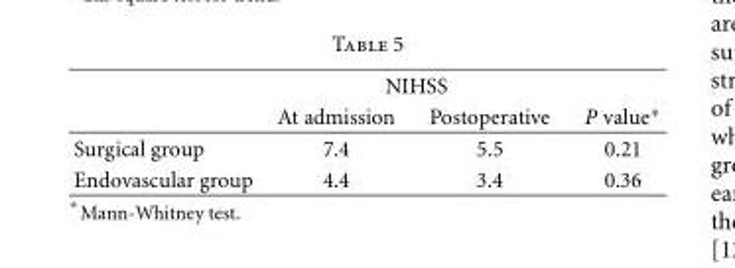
<table><thead><tr><td rowspan="2"></td><td colspan="2">NIHSS</td><td rowspan="2">P value∗</td></tr><tr><td>At admission</td><td>Postoperative</td></tr></thead><tbody><tr><td>Surgical group</td><td>7.4</td><td>5.5</td><td>0.21</td></tr><tr><td>Endovascular group</td><td>4.4</td><td>3.4</td><td>0.36</td></tr></tbody></table>